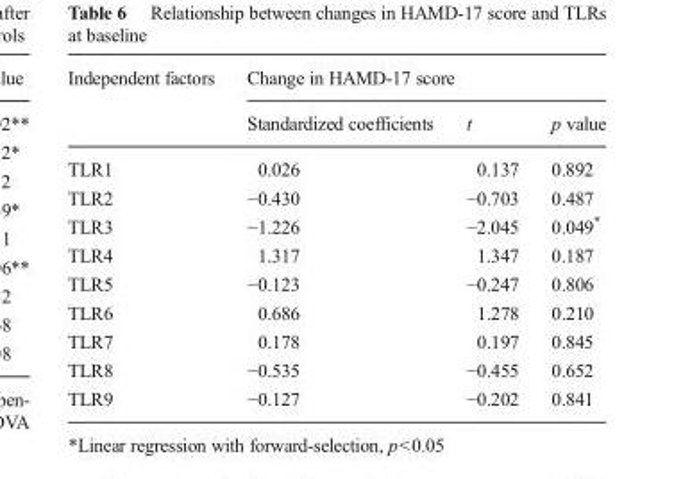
<table><thead><tr><td rowspan="2">Independent factors</td><td colspan="3">Change in HAMD-17 score</td></tr><tr><td>Standardized coefficients</td><td>t</td><td>p value</td></tr></thead><tbody><tr><td>TLR1</td><td>0.026</td><td>0.137</td><td>0.892</td></tr><tr><td>TLR2</td><td>−0.430</td><td>−0.703</td><td>0.487</td></tr><tr><td>TLR3</td><td>−1.226</td><td>−2.045</td><td>0.049*</td></tr><tr><td>TLR4</td><td>1.317</td><td>1.347</td><td>0.187</td></tr><tr><td>TLR5</td><td>−0.123</td><td>−0.247</td><td>0.806</td></tr><tr><td>TLR6</td><td>0.686</td><td>1.278</td><td>0.210</td></tr><tr><td>TLR7</td><td>0.178</td><td>0.197</td><td>0.845</td></tr><tr><td>TLR8</td><td>−0.535</td><td>−0.455</td><td>0.652</td></tr><tr><td>TLR9</td><td>−0.127</td><td>−0.202</td><td>0.841</td></tr></tbody></table>